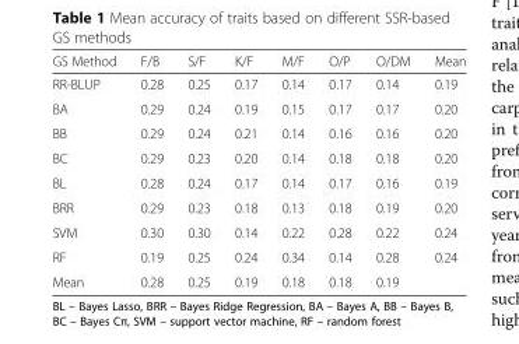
<table><thead><tr><td>GS Method</td><td>F/B</td><td>S/F</td><td>K/F</td><td>M/F</td><td>O/P</td><td>O/DM</td><td>Mean</td></tr></thead><tbody><tr><td>RR-BLUP</td><td>0.28</td><td>0.25</td><td>0.17</td><td>0.14</td><td>0.17</td><td>0.14</td><td>0.19</td></tr><tr><td>BA</td><td>0.29</td><td>0.24</td><td>0.19</td><td>0.15</td><td>0.17</td><td>0.17</td><td>0.20</td></tr><tr><td>BB</td><td>0.29</td><td>0.24</td><td>0.21</td><td>0.14</td><td>0.16</td><td>0.16</td><td>0.20</td></tr><tr><td>BC</td><td>0.29</td><td>0.23</td><td>0.20</td><td>0.14</td><td>0.18</td><td>0.18</td><td>0.20</td></tr><tr><td>BL</td><td>0.28</td><td>0.24</td><td>0.17</td><td>0.14</td><td>0.17</td><td>0.16</td><td>0.19</td></tr><tr><td>BRR</td><td>0.29</td><td>0.23</td><td>0.18</td><td>0.13</td><td>0.18</td><td>0.19</td><td>0.20</td></tr><tr><td>SVM</td><td>0.30</td><td>0.30</td><td>0.14</td><td>0.22</td><td>0.28</td><td>0.22</td><td>0.24</td></tr><tr><td>RF</td><td>0.19</td><td>0.25</td><td>0.24</td><td>0.34</td><td>0.14</td><td>0.28</td><td>0.24</td></tr><tr><td>Mean</td><td>0.28</td><td>0.25</td><td>0.19</td><td>0.18</td><td>0.18</td><td>0.19</td><td></td></tr></tbody></table>